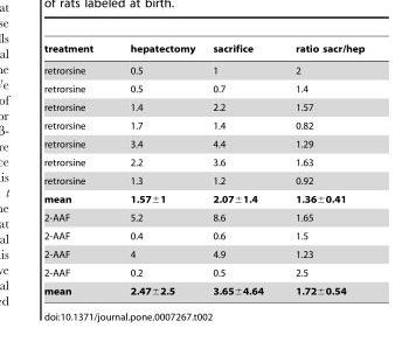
<table><thead><tr><td>treatment</td><td>hepatectomy</td><td>sacrifice</td><td>ratio sacr/hep</td></tr></thead><tbody><tr><td>retrorsine</td><td>0.5</td><td>1</td><td>2</td></tr><tr><td>retrorsine</td><td>0.5</td><td>0.7</td><td>1.4</td></tr><tr><td>retrorsine</td><td>1.4</td><td>2.2</td><td>1.57</td></tr><tr><td>retrorsine</td><td>1.7</td><td>1.4</td><td>0.82</td></tr><tr><td>retrorsine</td><td>3.4</td><td>4.4</td><td>1.29</td></tr><tr><td>retrorsine</td><td>2.2</td><td>3.6</td><td>1.63</td></tr><tr><td>retrorsine</td><td>1.3</td><td>1.2</td><td>0.92</td></tr><tr><td>mean</td><td>1.57±1</td><td>2.07±1.4</td><td>1.36±0.41</td></tr><tr><td>2-AAF</td><td>5.2</td><td>8.6</td><td>1.65</td></tr><tr><td>2-AAF</td><td>0.4</td><td>0.6</td><td>1.5</td></tr><tr><td>2-AAF</td><td>4</td><td>4.9</td><td>1.23</td></tr><tr><td>2-AAF</td><td>0.2</td><td>0.5</td><td>2.5</td></tr><tr><td>mean</td><td>2.47±2.5</td><td>3.65±4.64</td><td>1.72±0.54</td></tr></tbody></table>